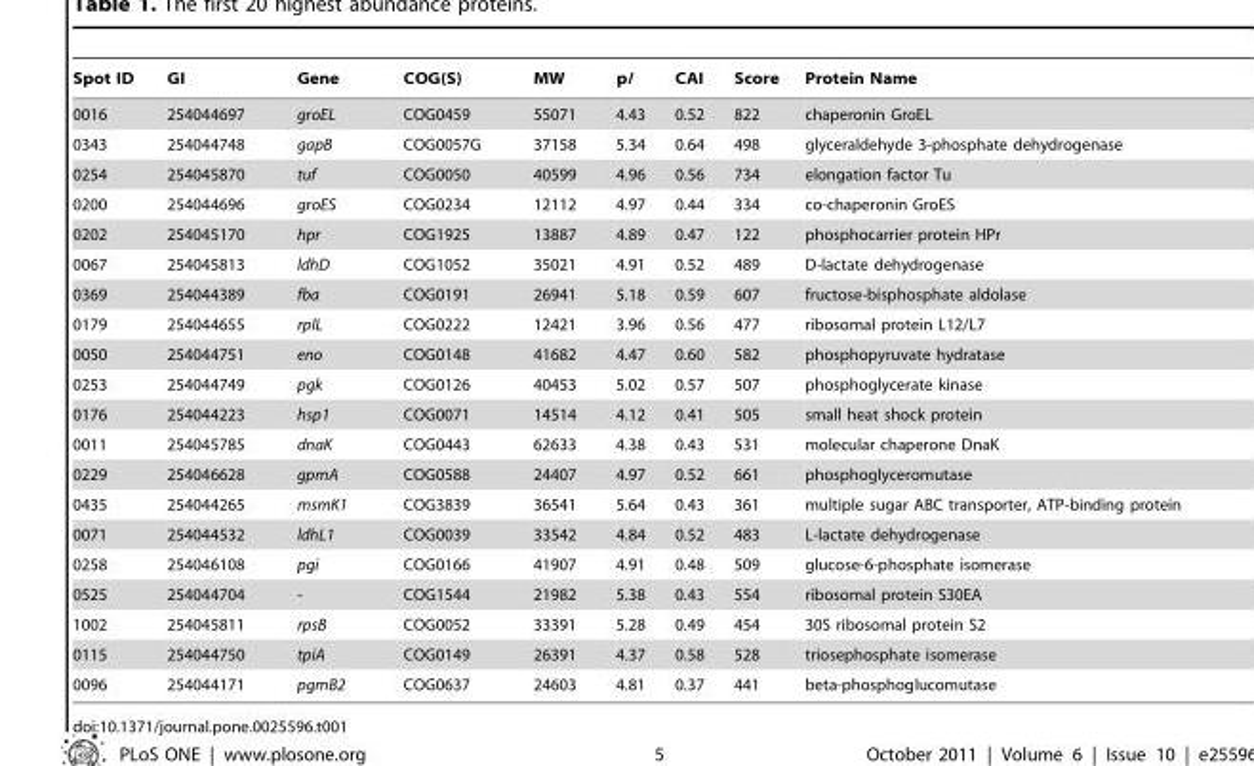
<table><thead><tr><td>Spot ID</td><td>GI</td><td>Gene</td><td>COG(S)</td><td>MW</td><td>pI</td><td>CAI</td><td>Score</td><td>Protein Name</td></tr></thead><tbody><tr><td>0016</td><td>254044697</td><td>groEL</td><td>COG0459</td><td>55071</td><td>4.43</td><td>0.52</td><td>822</td><td>chaperonin GroEL</td></tr><tr><td>0343</td><td>254044748</td><td>gapB</td><td>COG0057G</td><td>37158</td><td>5.34</td><td>0.64</td><td>498</td><td>glyceraldehyde 3-phosphate dehydrogenase</td></tr><tr><td>0254</td><td>254045870</td><td>tuf</td><td>COG0050</td><td>40599</td><td>4.96</td><td>0.56</td><td>734</td><td>elongation factor Tu</td></tr><tr><td>0200</td><td>254044696</td><td>groES</td><td>COG0234</td><td>12112</td><td>4.97</td><td>0.44</td><td>334</td><td>co-chaperonin GroES</td></tr><tr><td>0202</td><td>254045170</td><td>hpr</td><td>COG1925</td><td>13887</td><td>4.89</td><td>0.47</td><td>122</td><td>phosphocarrier protein HPr</td></tr><tr><td>0067</td><td>254045813</td><td>ldhD</td><td>COG1052</td><td>35021</td><td>4.91</td><td>0.52</td><td>489</td><td>D-lactate dehydrogenase</td></tr><tr><td>0369</td><td>254044389</td><td>fba</td><td>COG0191</td><td>26941</td><td>5.18</td><td>0.59</td><td>607</td><td>fructose-bisphosphate aldolase</td></tr><tr><td>0179</td><td>254044655</td><td>rplL</td><td>COG0222</td><td>12421</td><td>3.96</td><td>0.56</td><td>477</td><td>ribosomal protein L12/L7</td></tr><tr><td>0050</td><td>254044751</td><td>eno</td><td>COG0148</td><td>41682</td><td>4.47</td><td>0.60</td><td>582</td><td>phosphopyruvate hydratase</td></tr><tr><td>0253</td><td>254044749</td><td>pgk</td><td>COG0126</td><td>40453</td><td>5.02</td><td>0.57</td><td>507</td><td>phosphoglycerate kinase</td></tr><tr><td>0176</td><td>254044223</td><td>hsp1</td><td>COG0071</td><td>14514</td><td>4.12</td><td>0.41</td><td>505</td><td>small heat shock protein</td></tr><tr><td>0011</td><td>254045785</td><td>dnaK</td><td>COG0443</td><td>62633</td><td>4.38</td><td>0.43</td><td>531</td><td>molecular chaperone DnaK</td></tr><tr><td>0229</td><td>254046628</td><td>gpmA</td><td>COG0588</td><td>24407</td><td>4.97</td><td>0.52</td><td>661</td><td>phosphoglyceromutase</td></tr><tr><td>0435</td><td>254044265</td><td>msmK1</td><td>COG3839</td><td>36541</td><td>5.64</td><td>0.43</td><td>361</td><td>multiple sugar ABC transporter, ATP-binding protein</td></tr><tr><td>0071</td><td>254044532</td><td>ldhL1</td><td>COG0039</td><td>33542</td><td>4.84</td><td>0.52</td><td>483</td><td>L-lactate dehydrogenase</td></tr><tr><td>0258</td><td>254046108</td><td>pgi</td><td>COG0166</td><td>41907</td><td>4.91</td><td>0.48</td><td>509</td><td>glucose-6-phosphate isomerase</td></tr><tr><td>0525</td><td>254044704</td><td>-</td><td>COG1544</td><td>21982</td><td>5.38</td><td>0.43</td><td>554</td><td>ribosomal protein S30EA</td></tr><tr><td>1002</td><td>254045811</td><td>rpsB</td><td>COG0052</td><td>33391</td><td>5.28</td><td>0.49</td><td>454</td><td>30S ribosomal protein S2</td></tr><tr><td>0115</td><td>254044750</td><td>tpiA</td><td>COG0149</td><td>26391</td><td>4.37</td><td>0.58</td><td>528</td><td>triosephosphate isomerase</td></tr><tr><td>0096</td><td>254044171</td><td>pgmB2</td><td>COG0637</td><td>24603</td><td>4.81</td><td>0.37</td><td>441</td><td>beta-phosphoglucomutase</td></tr></tbody></table>